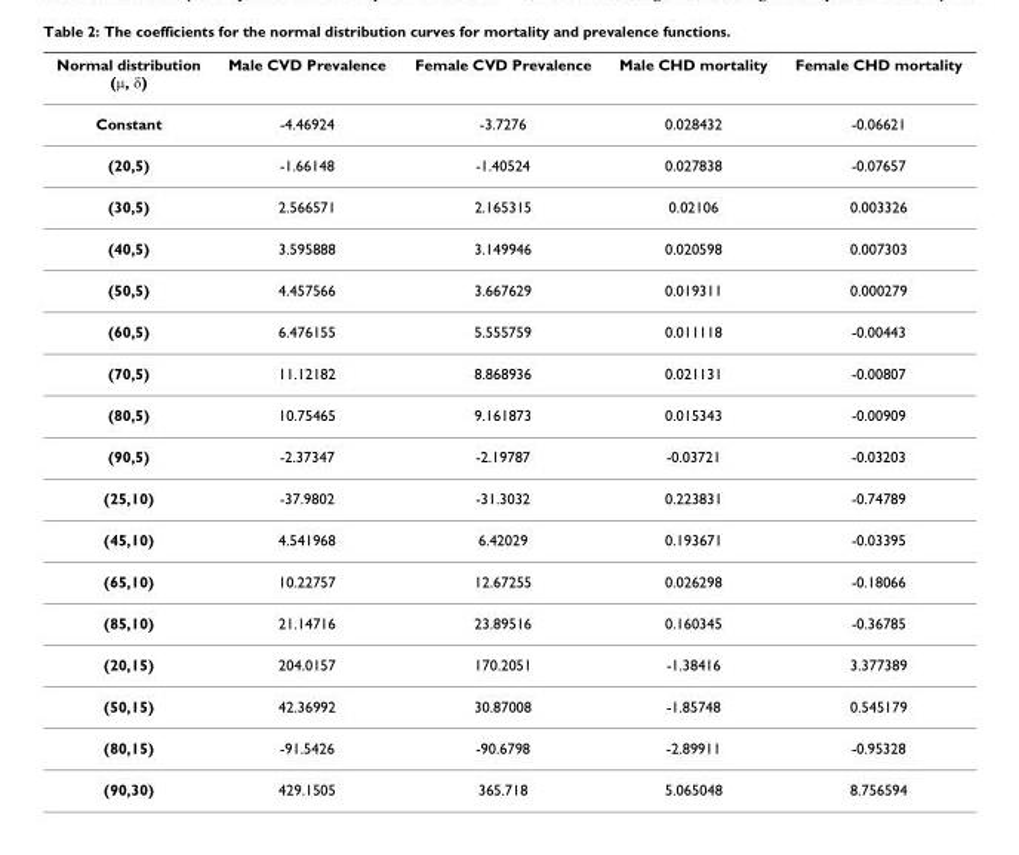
<table><thead><tr><td>Normal distribution (μ, δ)</td><td>Male CVD Prevalence</td><td>Female CVD Prevalence</td><td>Male CHD mortality</td><td>Female CHD mortality</td></tr></thead><tbody><tr><td>Constant</td><td>-4.46924</td><td>-3.7276</td><td>0.028432</td><td>-0.06621</td></tr><tr><td>(20,5)</td><td>-1.66148</td><td>-1.40524</td><td>0.027838</td><td>-0.07657</td></tr><tr><td>(30,5)</td><td>2.566571</td><td>2.165315</td><td>0.02106</td><td>0.003326</td></tr><tr><td>(40,5)</td><td>3.595888</td><td>3.149946</td><td>0.020598</td><td>0.007303</td></tr><tr><td>(50,5)</td><td>4.457566</td><td>3.667629</td><td>0.019311</td><td>0.000279</td></tr><tr><td>(60,5)</td><td>6.476155</td><td>5.555759</td><td>0.011118</td><td>-0.00443</td></tr><tr><td>(70,5)</td><td>11.12182</td><td>8.868936</td><td>0.021131</td><td>-0.00807</td></tr><tr><td>(80,5)</td><td>10.75465</td><td>9.161873</td><td>0.015343</td><td>-0.00909</td></tr><tr><td>(90,5)</td><td>-2.37347</td><td>-2.19787</td><td>-0.03721</td><td>-0.03203</td></tr><tr><td>(25,10)</td><td>-37.9802</td><td>-31.3032</td><td>0.223831</td><td>-0.74789</td></tr><tr><td>(45,10)</td><td>4.541968</td><td>6.42029</td><td>0.193671</td><td>-0.03395</td></tr><tr><td>(65,10)</td><td>10.22757</td><td>12.67255</td><td>0.026298</td><td>-0.18066</td></tr><tr><td>(85,10)</td><td>21.14716</td><td>23.89516</td><td>0.160345</td><td>-0.36785</td></tr><tr><td>(20,15)</td><td>204.0157</td><td>170.2051</td><td>-1.38416</td><td>3.377389</td></tr><tr><td>(50,15)</td><td>42.36992</td><td>30.87008</td><td>-1.85748</td><td>0.545179</td></tr><tr><td>(80,15)</td><td>-91.5426</td><td>-90.6798</td><td>-2.89911</td><td>-0.95328</td></tr><tr><td>(90,30)</td><td>429.1505</td><td>365.718</td><td>5.065048</td><td>8.756594</td></tr></tbody></table>